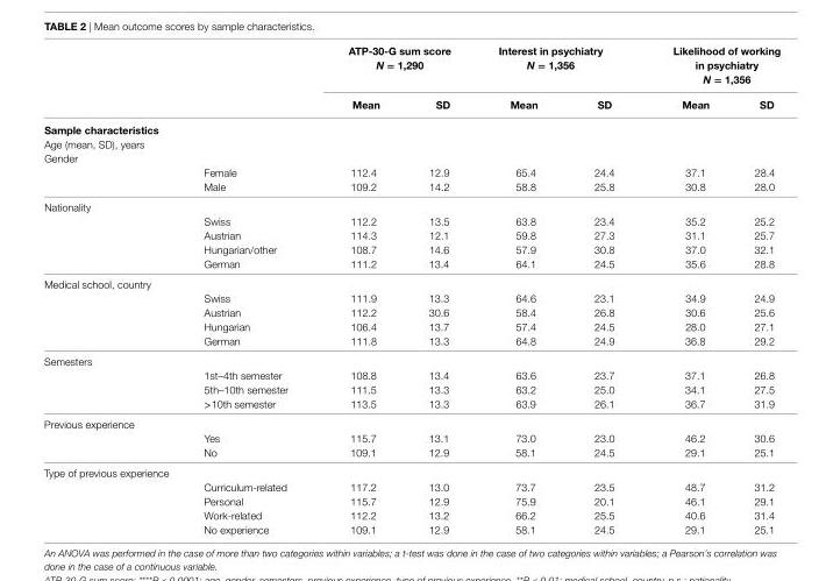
<table><thead><tr><td rowspan="2"></td><td rowspan="2"></td><td colspan="2">aTP-30-g sum score N = 1,290</td><td colspan="2">interest in psychiatry N = 1,356</td><td colspan="2">likelihood of working in psychiatry N = 1,356</td></tr><tr><td>Mean</td><td>sD</td><td>Mean</td><td>sD</td><td>Mean</td><td>sD</td></tr></thead><tbody><tr><td colspan="8">sample characteristics</td></tr><tr><td colspan="8">Age (mean, SD), years</td></tr><tr><td colspan="8">Gender</td></tr><tr><td></td><td>Female</td><td>112.4</td><td>12.9</td><td>65.4</td><td>24.4</td><td>37.1</td><td>28.4</td></tr><tr><td></td><td>Male</td><td>109.2</td><td>14.2</td><td>58.8</td><td>25.8</td><td>30.8</td><td>28.0</td></tr><tr><td colspan="8">Nationality</td></tr><tr><td></td><td>Swiss</td><td>112.2</td><td>13.5</td><td>63.8</td><td>23.4</td><td>35.2</td><td>25.2</td></tr><tr><td></td><td>Austrian</td><td>114.3</td><td>12.1</td><td>59.8</td><td>27.3</td><td>31.1</td><td>25.7</td></tr><tr><td></td><td>Hungarian/other</td><td>108.7</td><td>14.6</td><td>57.9</td><td>30.8</td><td>37.0</td><td>32.1</td></tr><tr><td></td><td>German</td><td>111.2</td><td>13.4</td><td>64.1</td><td>24.5</td><td>35.6</td><td>28.8</td></tr><tr><td colspan="8">Medical school, country</td></tr><tr><td></td><td>Swiss</td><td>111.9</td><td>13.3</td><td>64.6</td><td>23.1</td><td>34.9</td><td>24.9</td></tr><tr><td></td><td>Austrian</td><td>112.2</td><td>30.6</td><td>58.4</td><td>26.8</td><td>30.6</td><td>25.6</td></tr><tr><td></td><td>Hungarian</td><td>106.4</td><td>13.7</td><td>57.4</td><td>24.5</td><td>28.0</td><td>27.1</td></tr><tr><td></td><td>German</td><td>111.8</td><td>13.3</td><td>64.8</td><td>24.9</td><td>36.8</td><td>29.2</td></tr><tr><td colspan="8">Semesters</td></tr><tr><td></td><td>1st–4th semester</td><td>108.8</td><td>13.4</td><td>63.6</td><td>23.7</td><td>37.1</td><td>26.8</td></tr><tr><td></td><td>5th–10th semester</td><td>111.5</td><td>13.3</td><td>63.2</td><td>25.0</td><td>34.1</td><td>27.5</td></tr><tr><td></td><td>&gt;10th semester</td><td>113.5</td><td>13.3</td><td>63.9</td><td>26.1</td><td>36.7</td><td>31.9</td></tr><tr><td colspan="8">Previous experience</td></tr><tr><td></td><td>Yes</td><td>115.7</td><td>13.1</td><td>73.0</td><td>23.0</td><td>46.2</td><td>30.6</td></tr><tr><td></td><td>No</td><td>109.1</td><td>12.9</td><td>58.1</td><td>24.5</td><td>29.1</td><td>25.1</td></tr><tr><td colspan="8">Type of previous experience</td></tr><tr><td></td><td>Curriculum-related</td><td>117.2</td><td>13.0</td><td>73.7</td><td>23.5</td><td>48.7</td><td>31.2</td></tr><tr><td></td><td>Personal</td><td>115.7</td><td>12.9</td><td>75.9</td><td>20.1</td><td>46.1</td><td>29.1</td></tr><tr><td></td><td>Work-related</td><td>112.2</td><td>13.2</td><td>66.2</td><td>25.5</td><td>40.6</td><td>31.4</td></tr><tr><td></td><td>No experience</td><td>109.1</td><td>12.9</td><td>58.1</td><td>24.5</td><td>29.1</td><td>25.1</td></tr></tbody></table>